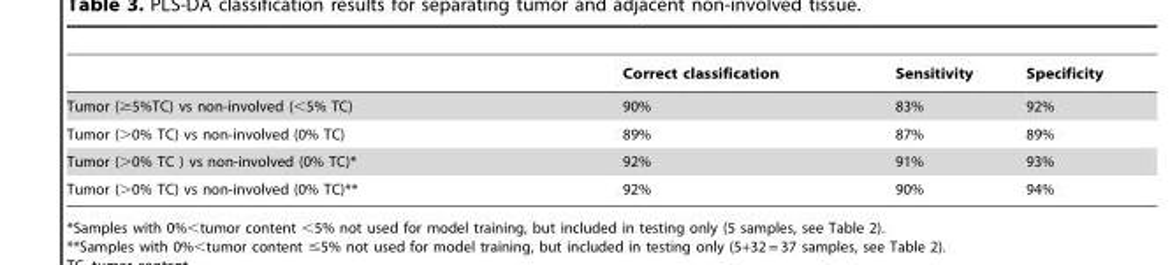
<table><thead><tr><td></td><td>Correct classification</td><td>Sensitivity</td><td>Specificity</td></tr></thead><tbody><tr><td>Tumor (≥5%TC) vs non-involved (&lt;5% TC)</td><td>90%</td><td>83%</td><td>92%</td></tr><tr><td>Tumor (&gt;0% TC) vs non-involved (0% TC)</td><td>89%</td><td>87%</td><td>89%</td></tr><tr><td>Tumor (&gt;0% TC ) vs non-involved (0% TC)*</td><td>92%</td><td>91%</td><td>93%</td></tr><tr><td>Tumor (&gt;0% TC) vs non-involved (0% TC)**</td><td>92%</td><td>90%</td><td>94%</td></tr></tbody></table>